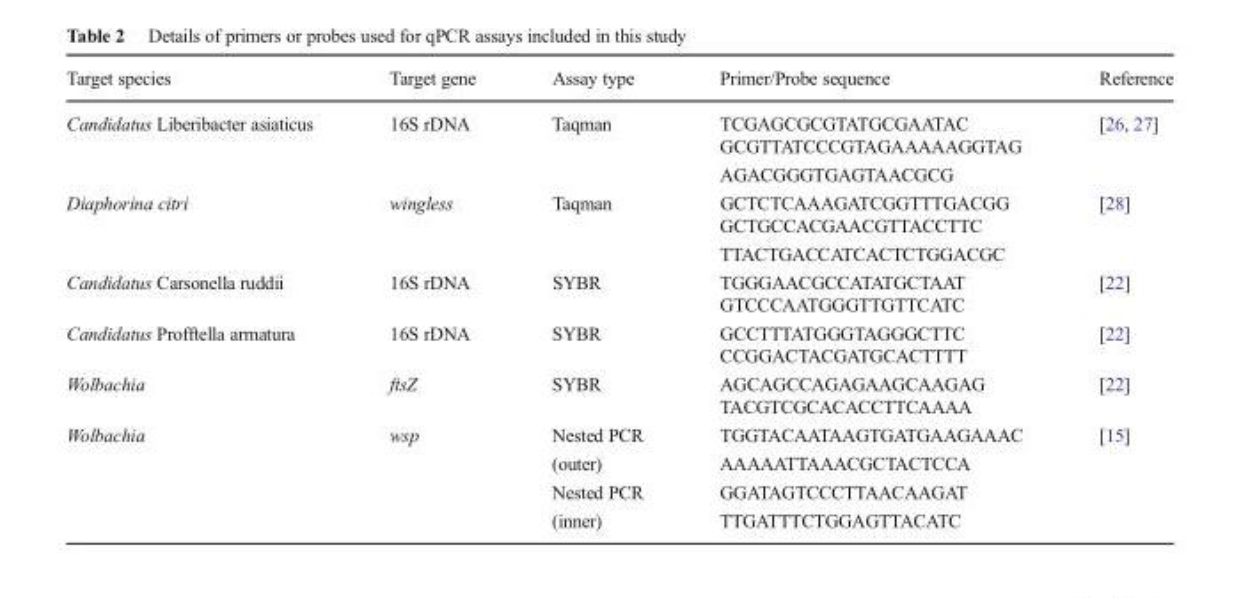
<table><thead><tr><td>Target species</td><td>Target gene</td><td>Assay type</td><td>Primer/Probe sequence</td><td>Reference</td></tr></thead><tbody><tr><td rowspan="3">Candidatus Liberibacter asiaticus</td><td rowspan="3">16S rDNA</td><td rowspan="3">Taqman</td><td>TCGAGCGCGTATGCGAATAC</td><td rowspan="3">[26, 27]</td></tr><tr><td>GCGTTATCCCGTAGAAAAAGGTAG</td></tr><tr><td>AGACGGGTGAGTAACGCG</td></tr><tr><td rowspan="3">Diaphorina citri</td><td rowspan="3">wingless</td><td rowspan="3">Taqman</td><td>GCTCTCAAAGATCGGTTTGACGG</td><td rowspan="3">[28]</td></tr><tr><td>GCTGCCACGAACGTTACCTTC</td></tr><tr><td>TTACTGACCATCACTCTGGACGC</td></tr><tr><td rowspan="2">Candidatus Carsonella ruddii</td><td rowspan="2">16S rDNA</td><td rowspan="2">SYBR</td><td>TGGGAACGCCATATGCTAAT</td><td rowspan="2">[22]</td></tr><tr><td>GTCCCAATGGGTTGTTCATC</td></tr><tr><td rowspan="2">Candidatus Profftella armatura</td><td rowspan="2">16S rDNA</td><td rowspan="2">SYBR</td><td>GCCTTTATGGGTAGGGCTTC</td><td rowspan="2">[22]</td></tr><tr><td>CCGGACTACGATGCACTTTT</td></tr><tr><td rowspan="2">Wolbachia</td><td rowspan="2">ftsZ</td><td rowspan="2">SYBR</td><td>AGCAGCCAGAGAAGCAAGAG</td><td rowspan="2">[22]</td></tr><tr><td>TACGTCGCACACCTTCAAAA</td></tr><tr><td rowspan="4">Wolbachia</td><td>wsp</td><td>Nested PCR</td><td>TGGTACAATAAGTGATGAAGAAAC</td><td>[15]</td></tr><tr><td></td><td>(outer)</td><td>AAAAATTAAACGCTACTCCA</td><td></td></tr><tr><td></td><td>Nested PCR</td><td>GGATAGTCCCTTAACAAGAT</td><td></td></tr><tr><td></td><td>(inner)</td><td>TTGATTTCTGGAGTTACATC</td><td></td></tr></tbody></table>